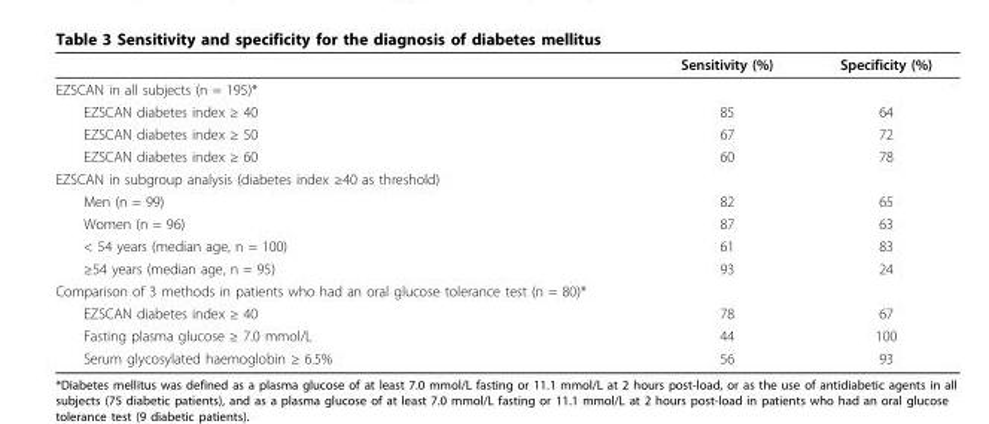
<table><thead><tr><td></td><td>Sensitivity (%)</td><td>Specificity (%)</td></tr></thead><tbody><tr><td colspan="3">EZSCAN in all subjects (n = 195)*</td></tr><tr><td>EZSCAN diabetes index ≥ 40</td><td>85</td><td>64</td></tr><tr><td>EZSCAN diabetes index ≥ 50</td><td>67</td><td>72</td></tr><tr><td>EZSCAN diabetes index ≥ 60</td><td>60</td><td>78</td></tr><tr><td colspan="3">EZSCAN in subgroup analysis (diabetes index ≥40 as threshold)</td></tr><tr><td>Men (n = 99)</td><td>82</td><td>65</td></tr><tr><td>Women (n = 96)</td><td>87</td><td>63</td></tr><tr><td>&lt; 54 years (median age, n = 100)</td><td>61</td><td>83</td></tr><tr><td>≥54 years (median age, n = 95)</td><td>93</td><td>24</td></tr><tr><td colspan="3">Comparison of 3 methods in patients who had an oral glucose tolerance test (n = 80)*</td></tr><tr><td>EZSCAN diabetes index ≥ 40</td><td>78</td><td>67</td></tr><tr><td>Fasting plasma glucose ≥ 7.0 mmol/L</td><td>44</td><td>100</td></tr><tr><td>Serum glycosylated haemoglobin ≥ 6.5%</td><td>56</td><td>93</td></tr></tbody></table>